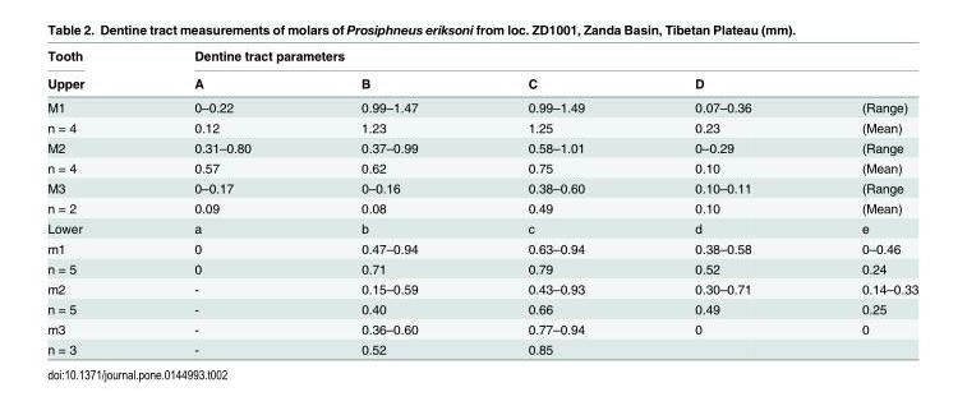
<table><thead><tr><td rowspan="2">Tooth Upper</td><td colspan="5">Dentine tract parameters</td></tr><tr><td>A</td><td>B</td><td>C</td><td>D</td><td></td></tr></thead><tbody><tr><td>M1</td><td>0–0.22</td><td>0.99–1.47</td><td>0.99–1.49</td><td>0.07–0.36</td><td>(Range)</td></tr><tr><td>n = 4</td><td>0.12</td><td>1.23</td><td>1.25</td><td>0.23</td><td>(Mean)</td></tr><tr><td>M2</td><td>0.31–0.80</td><td>0.37–0.99</td><td>0.58–1.01</td><td>0–0.29</td><td>(Range</td></tr><tr><td>n = 4</td><td>0.57</td><td>0.62</td><td>0.75</td><td>0.10</td><td>(Mean)</td></tr><tr><td>M3</td><td>0–0.17</td><td>0–0.16</td><td>0.38–0.60</td><td>0.10–0.11</td><td>(Range</td></tr><tr><td>n = 2</td><td>0.09</td><td>0.08</td><td>0.49</td><td>0.10</td><td>(Mean)</td></tr><tr><td>Lower</td><td>a</td><td>b</td><td>c</td><td>d</td><td>e</td></tr><tr><td>m1</td><td>0</td><td>0.47–0.94</td><td>0.63–0.94</td><td>0.38–0.58</td><td>0–0.46</td></tr><tr><td>n = 5</td><td>0</td><td>0.71</td><td>0.79</td><td>0.52</td><td>0.24</td></tr><tr><td>m2</td><td>-</td><td>0.15–0.59</td><td>0.43–0.93</td><td>0.30–0.71</td><td>0.14–0.33</td></tr><tr><td>n = 5</td><td>-</td><td>0.40</td><td>0.66</td><td>0.49</td><td>0.25</td></tr><tr><td>m3</td><td>-</td><td>0.36–0.60</td><td>0.77–0.94</td><td>0</td><td>0</td></tr><tr><td>n = 3</td><td>-</td><td>0.52</td><td>0.85</td><td></td><td></td></tr></tbody></table>